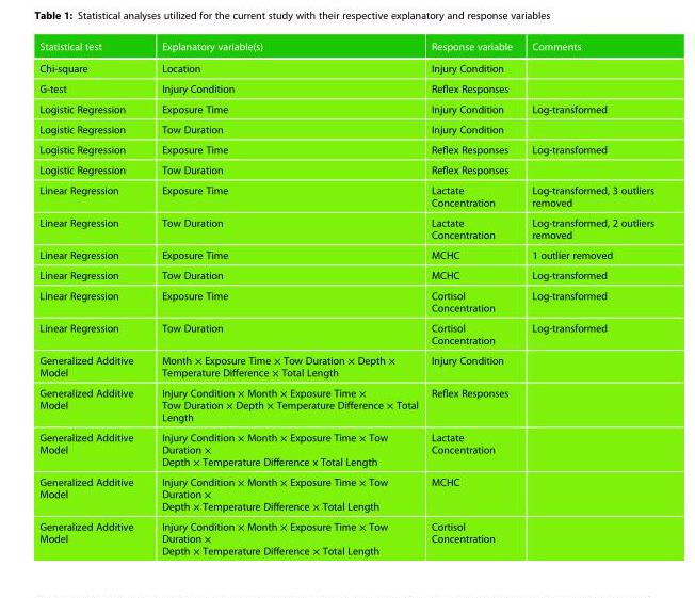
<table><thead><tr><td>Statistical test</td><td>Explanatory variable(s)</td><td>Response variable</td><td>Comments</td></tr></thead><tbody><tr><td>Chi-square</td><td>Location</td><td>Injury Condition</td><td></td></tr><tr><td>G-test</td><td>Injury Condition</td><td>Reflex Responses</td><td></td></tr><tr><td>Logistic Regression</td><td>Exposure Time</td><td>Injury Condition</td><td>Log-transformed</td></tr><tr><td>Logistic Regression</td><td>Tow Duration</td><td>Injury Condition</td><td></td></tr><tr><td>Logistic Regression</td><td>Exposure Time</td><td>Reflex Responses</td><td>Log-transformed</td></tr><tr><td>Logistic Regression</td><td>Tow Duration</td><td>Reflex Responses</td><td></td></tr><tr><td>Linear Regression</td><td>Exposure Time</td><td>Lactate Concentration</td><td>Log-transformed, 3 outliers removed</td></tr><tr><td>Linear Regression</td><td>Tow Duration</td><td>Lactate Concentration</td><td>Log-transformed, 2 outliers removed</td></tr><tr><td>Linear Regression</td><td>Exposure Time</td><td>MCHC</td><td>1 outlier removed</td></tr><tr><td>Linear Regression</td><td>Tow Duration</td><td>MCHC</td><td>Log-transformed</td></tr><tr><td>Linear Regression</td><td>Exposure Time</td><td>Cortisol Concentration</td><td>Log-transformed</td></tr><tr><td>Linear Regression</td><td>Tow Duration</td><td>Cortisol Concentration</td><td>Log-transformed</td></tr><tr><td>Generalized Additive Model</td><td>Month × Exposure Time × Tow Duration × Depth × Temperature Difference × Total Length</td><td>Injury Condition</td><td></td></tr><tr><td>Generalized Additive Model</td><td>Injury Condition × Month × Exposure Time × Tow Duration × Depth × Temperature Difference × Total Length</td><td>Reflex Responses</td><td></td></tr><tr><td>Generalized Additive Model</td><td>Injury Condition × Month × Exposure Time × Tow Duration × Depth × Temperature Difference x Total Length</td><td>Lactate Concentration</td><td></td></tr><tr><td>Generalized Additive Model</td><td>Injury Condition × Month × Exposure Time × Tow Duration × Depth × Temperature Difference × Total Length</td><td>MCHC</td><td></td></tr><tr><td>Generalized Additive Model</td><td>Injury Condition × Month × Exposure Time × Tow Duration × Depth × Temperature Difference × Total Length</td><td>Cortisol Concentration</td><td></td></tr></tbody></table>